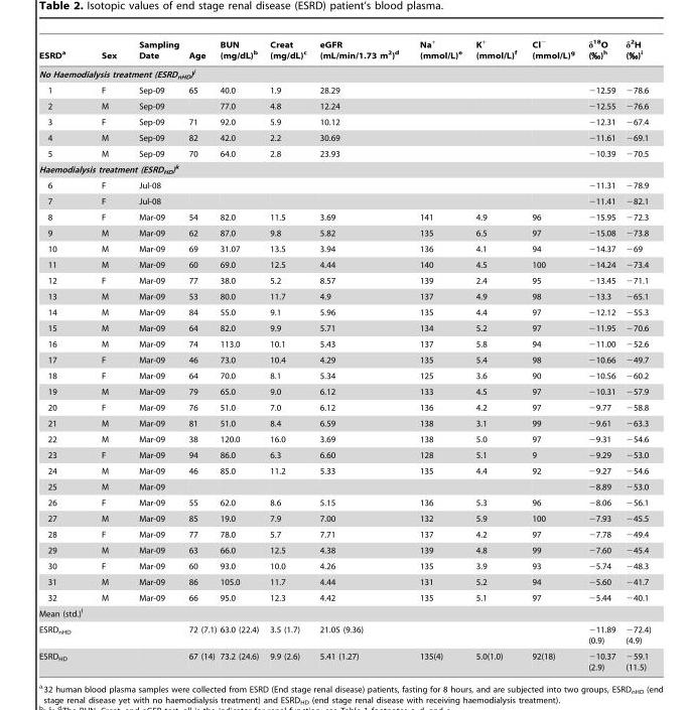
<table><thead><tr><td>ESRD<sup>a</sup></td><td>Sex</td><td>Sampling Date</td><td>Age</td><td>BUN (mg/dL)<sup>b</sup></td><td>Creat (mg/dL)<sup>c</sup></td><td>eGFR (mL/min/1.73 m<sup>2</sup>)<sup>d</sup></td><td>Na<sup>+</sup> (mmol/L)<sup>e</sup></td><td>K<sup>+</sup> (mmol/L)<sup>f</sup></td><td>Cl<sup>−</sup> (mmol/L)<sup>g</sup></td><td>δ<sup>18</sup>O (‰)<sup>h</sup></td><td>δ<sup>2</sup>H (‰)<sup>i</sup></td></tr></thead><tbody><tr><td colspan="12">No Haemodialysis treatment (ESRD<sub>nHD</sub>)j</td></tr><tr><td>1</td><td>F</td><td>Sep-09</td><td>65</td><td>40.0</td><td>1.9</td><td>28.29</td><td></td><td></td><td></td><td>−12.59</td><td>−78.6</td></tr><tr><td>2</td><td>M</td><td>Sep-09</td><td></td><td>77.0</td><td>4.8</td><td>12.24</td><td></td><td></td><td></td><td>−12.55</td><td>−76.6</td></tr><tr><td>3</td><td>F</td><td>Sep-09</td><td>71</td><td>92.0</td><td>5.9</td><td>10.12</td><td></td><td></td><td></td><td>−12.31</td><td>−67.4</td></tr><tr><td>4</td><td>M</td><td>Sep-09</td><td>82</td><td>42.0</td><td>2.2</td><td>30.69</td><td></td><td></td><td></td><td>−11.61</td><td>−69.1</td></tr><tr><td>5</td><td>M</td><td>Sep-09</td><td>70</td><td>64.0</td><td>2.8</td><td>23.93</td><td></td><td></td><td></td><td>−10.39</td><td>−70.5</td></tr><tr><td colspan="12">Haemodialysis treatment (ESRD<sub>HD</sub>)k</td></tr><tr><td>6</td><td>F</td><td>Jul-08</td><td></td><td></td><td></td><td></td><td></td><td></td><td></td><td>−11.31</td><td>−78.9</td></tr><tr><td>7</td><td>F</td><td>Jul-08</td><td></td><td></td><td></td><td></td><td></td><td></td><td></td><td>−11.41</td><td>−82.1</td></tr><tr><td>8</td><td>F</td><td>Mar-09</td><td>54</td><td>82.0</td><td>11.5</td><td>3.69</td><td>141</td><td>4.9</td><td>96</td><td>−15.95</td><td>−72.3</td></tr><tr><td>9</td><td>M</td><td>Mar-09</td><td>62</td><td>87.0</td><td>9.8</td><td>5.82</td><td>135</td><td>6.5</td><td>97</td><td>−15.08</td><td>−73.8</td></tr><tr><td>10</td><td>M</td><td>Mar-09</td><td>69</td><td>31.07</td><td>13.5</td><td>3.94</td><td>136</td><td>4.1</td><td>94</td><td>−14.37</td><td>−69</td></tr><tr><td>11</td><td>M</td><td>Mar-09</td><td>60</td><td>69.0</td><td>12.5</td><td>4.44</td><td>140</td><td>4.5</td><td>100</td><td>−14.24</td><td>−73.4</td></tr><tr><td>12</td><td>F</td><td>Mar-09</td><td>77</td><td>38.0</td><td>5.2</td><td>8.57</td><td>139</td><td>2.4</td><td>95</td><td>−13.45</td><td>−71.1</td></tr><tr><td>13</td><td>M</td><td>Mar-09</td><td>53</td><td>80.0</td><td>11.7</td><td>4.9</td><td>137</td><td>4.9</td><td>98</td><td>−13.3</td><td>−65.1</td></tr><tr><td>14</td><td>M</td><td>Mar-09</td><td>84</td><td>55.0</td><td>9.1</td><td>5.96</td><td>135</td><td>4.4</td><td>97</td><td>−12.12</td><td>−55.3</td></tr><tr><td>15</td><td>M</td><td>Mar-09</td><td>64</td><td>82.0</td><td>9.9</td><td>5.71</td><td>134</td><td>5.2</td><td>97</td><td>−11.95</td><td>−70.6</td></tr><tr><td>16</td><td>M</td><td>Mar-09</td><td>74</td><td>113.0</td><td>10.1</td><td>5.43</td><td>137</td><td>5.8</td><td>94</td><td>−11.00</td><td>−52.6</td></tr><tr><td>17</td><td>F</td><td>Mar-09</td><td>46</td><td>73.0</td><td>10.4</td><td>4.29</td><td>135</td><td>5.4</td><td>98</td><td>−10.66</td><td>−49.7</td></tr><tr><td>18</td><td>F</td><td>Mar-09</td><td>64</td><td>70.0</td><td>8.1</td><td>5.34</td><td>125</td><td>3.6</td><td>90</td><td>−10.56</td><td>−60.2</td></tr><tr><td>19</td><td>M</td><td>Mar-09</td><td>79</td><td>65.0</td><td>9.0</td><td>6.12</td><td>133</td><td>4.5</td><td>97</td><td>−10.31</td><td>−57.9</td></tr><tr><td>20</td><td>F</td><td>Mar-09</td><td>76</td><td>51.0</td><td>7.0</td><td>6.12</td><td>136</td><td>4.2</td><td>97</td><td>−9.77</td><td>−58.8</td></tr><tr><td>21</td><td>M</td><td>Mar-09</td><td>81</td><td>51.0</td><td>8.4</td><td>6.59</td><td>138</td><td>3.1</td><td>99</td><td>−9.61</td><td>−63.3</td></tr><tr><td>22</td><td>M</td><td>Mar-09</td><td>38</td><td>120.0</td><td>16.0</td><td>3.69</td><td>138</td><td>5.0</td><td>97</td><td>−9.31</td><td>−54.6</td></tr><tr><td>23</td><td>F</td><td>Mar-09</td><td>94</td><td>86.0</td><td>6.3</td><td>6.60</td><td>128</td><td>5.1</td><td>9</td><td>−9.29</td><td>−53.0</td></tr><tr><td>24</td><td>M</td><td>Mar-09</td><td>46</td><td>85.0</td><td>11.2</td><td>5.33</td><td>135</td><td>4.4</td><td>92</td><td>−9.27</td><td>−54.6</td></tr><tr><td>25</td><td>M</td><td>Mar-09</td><td></td><td></td><td></td><td></td><td></td><td></td><td></td><td>−8.89</td><td>−53.0</td></tr><tr><td>26</td><td>F</td><td>Mar-09</td><td>55</td><td>62.0</td><td>8.6</td><td>5.15</td><td>136</td><td>5.3</td><td>96</td><td>−8.06</td><td>−56.1</td></tr><tr><td>27</td><td>M</td><td>Mar-09</td><td>85</td><td>19.0</td><td>7.9</td><td>7.00</td><td>132</td><td>5.9</td><td>100</td><td>−7.93</td><td>−45.5</td></tr><tr><td>28</td><td>F</td><td>Mar-09</td><td>77</td><td>78.0</td><td>5.7</td><td>7.71</td><td>137</td><td>4.2</td><td>97</td><td>−7.78</td><td>−49.4</td></tr><tr><td>29</td><td>M</td><td>Mar-09</td><td>63</td><td>66.0</td><td>12.5</td><td>4.38</td><td>139</td><td>4.8</td><td>99</td><td>−7.60</td><td>−45.4</td></tr><tr><td>30</td><td>F</td><td>Mar-09</td><td>60</td><td>93.0</td><td>10.0</td><td>4.26</td><td>135</td><td>3.9</td><td>93</td><td>−5.74</td><td>−48.3</td></tr><tr><td>31</td><td>M</td><td>Mar-09</td><td>86</td><td>105.0</td><td>11.7</td><td>4.44</td><td>131</td><td>5.2</td><td>94</td><td>−5.60</td><td>−41.7</td></tr><tr><td>32</td><td>M</td><td>Mar-09</td><td>66</td><td>95.0</td><td>12.3</td><td>4.42</td><td>135</td><td>5.1</td><td>97</td><td>−5.44</td><td>−40.1</td></tr><tr><td colspan="12">Mean (std.)<sup>l</sup></td></tr><tr><td>ESRD<sub>nHD</sub></td><td></td><td></td><td>72 (7.1)</td><td>63.0 (22.4)</td><td>3.5 (1.7)</td><td>21.05 (9.36)</td><td></td><td></td><td></td><td>−11.89 (0.9)</td><td>−72.4) (4.9)</td></tr><tr><td>ESRD<sub>HD</sub></td><td></td><td></td><td>67 (14)</td><td>73.2 (24.6)</td><td>9.9 (2.6)</td><td>5.41 (1.27)</td><td>135(4)</td><td>5.0(1.0)</td><td>92(18)</td><td>−10.37 (2.9)</td><td>−59.1 (11.5)</td></tr></tbody></table>